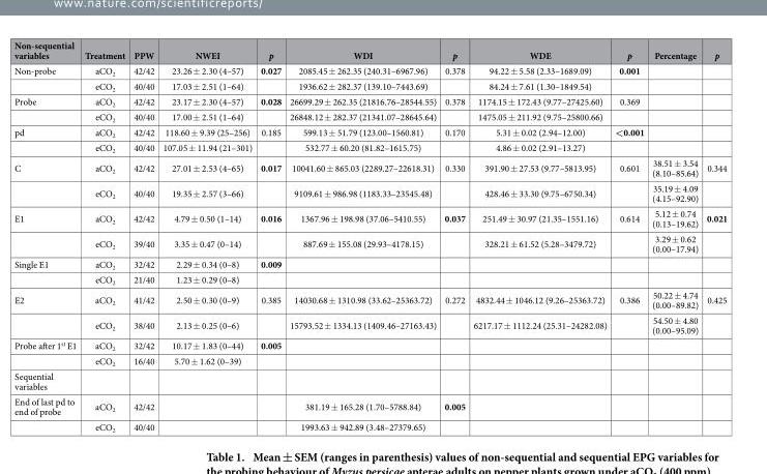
<table><thead><tr><td>Non-sequential variables</td><td>Treatment</td><td>PPW</td><td>NWEI</td><td>p</td><td>WDI</td><td>p</td><td>WDE</td><td>p</td><td>Percentage</td><td>p</td></tr></thead><tbody><tr><td rowspan="2">Non-probe</td><td>aCO<sub>2</sub></td><td>42/42</td><td>23.26 ± 2.30 (4–57)</td><td>0.027</td><td>2085.45 ± 262.35 (240.31–6967.96)</td><td>0.378</td><td>94.22 ± 5.58 (2.33–1689.09)</td><td>0.001</td><td></td><td></td></tr><tr><td>eCO<sub>2</sub></td><td>40/40</td><td>17.03 ± 2.51 (1–64)</td><td></td><td>1936.62 ± 282.37 (139.10–7443.69)</td><td></td><td>84.24 ± 7.61 (1.30–1849.54)</td><td></td><td></td><td></td></tr><tr><td rowspan="2">Probe</td><td>aCO<sub>2</sub></td><td>42/42</td><td>23.17 ± 2.30 (4–57)</td><td>0.028</td><td>26699.29 ± 262.35 (21816.76–28544.55)</td><td>0.378</td><td>1174.15 ± 172.43 (9.77–27425.60)</td><td>0.369</td><td></td><td></td></tr><tr><td>eCO<sub>2</sub></td><td>40/40</td><td>17.00 ± 2.51 (1–64)</td><td></td><td>26848.12 ± 282.37 (21341.07–28645.64)</td><td></td><td>1475.05 ± 211.92 (9.75–25800.66)</td><td></td><td></td><td></td></tr><tr><td rowspan="2">pd</td><td>aCO<sub>2</sub></td><td>42/42</td><td>118.60 ± 9.39 (25–256)</td><td>0.185</td><td>599.13 ± 51.79 (123.00–1560.81)</td><td>0.170</td><td>5.31 ± 0.02 (2.94–12.00)</td><td>&lt;0.001</td><td></td><td></td></tr><tr><td>eCO<sub>2</sub></td><td>40/40</td><td>107.05 ± 11.94 (21–301)</td><td></td><td>532.77 ± 60.20 (81.82–1615.75)</td><td></td><td>4.86 ± 0.02 (2.91–13.27)</td><td></td><td></td><td></td></tr><tr><td rowspan="2">C</td><td>aCO<sub>2</sub></td><td>42/42</td><td>27.01 ± 2.53 (4–65)</td><td>0.017</td><td>10041.60 ± 865.03 (2289.27–22618.31)</td><td>0.330</td><td>391.90 ± 27.53 (9.77–5813.95)</td><td>0.601</td><td>38.51 ± 3.54 (8.10–85.64)</td><td>0.344</td></tr><tr><td>eCO<sub>2</sub></td><td>40/40</td><td>19.35 ± 2.57 (3–66)</td><td></td><td>9109.61 ± 986.98 (1183.33–23545.48)</td><td></td><td>428.46 ± 33.30 (9.75–6750.34)</td><td></td><td>35.19 ± 4.09 (4.15–92.90)</td><td></td></tr><tr><td rowspan="2">E1</td><td>aCO<sub>2</sub></td><td>42/42</td><td>4.79 ± 0.50 (1–14)</td><td>0.016</td><td>1367.96 ± 198.98 (37.06–5410.55)</td><td>0.037</td><td>251.49 ± 30.97 (21.35–1551.16)</td><td>0.614</td><td>5.12 ± 0.74 (0.13–19.62)</td><td>0.021</td></tr><tr><td>eCO<sub>2</sub></td><td>39/40</td><td>3.35 ± 0.47 (0–14)</td><td></td><td>887.69 ± 155.08 (29.93–4178.15)</td><td></td><td>328.21 ± 61.52 (5.28–3479.72)</td><td></td><td>3.29 ± 0.62 (0.00–17.94)</td><td></td></tr><tr><td rowspan="2">Single E1</td><td>aCO<sub>2</sub></td><td>32/42</td><td>2.29 ± 0.34 (0–8)</td><td>0.009</td><td></td><td></td><td></td><td></td><td></td><td></td></tr><tr><td>eCO<sub>2</sub></td><td>21/40</td><td>1.23 ± 0.29 (0–8)</td><td></td><td></td><td></td><td></td><td></td><td></td><td></td></tr><tr><td rowspan="2">E2</td><td>aCO<sub>2</sub></td><td>41/42</td><td>2.50 ± 0.30 (0–9)</td><td>0.385</td><td>14030.68 ± 1310.98 (33.62–25363.72)</td><td>0.272</td><td>4832.44 ± 1046.12 (9.26–25363.72)</td><td>0.386</td><td>50.22 ± 4.74 (0.00–89.82)</td><td>0.425</td></tr><tr><td>eCO<sub>2</sub></td><td>38/40</td><td>2.13 ± 0.25 (0–6)</td><td></td><td>15793.52 ± 1334.13 (1409.46–27163.43)</td><td></td><td>6217.17 ± 1112.24 (25.31–24282.08)</td><td></td><td>54.50 ± 4.80 (0.00–95.09)</td><td></td></tr><tr><td rowspan="2">Probe after 1<sup>st</sup> E1</td><td>aCO<sub>2</sub></td><td>32/42</td><td>10.17 ± 1.83 (0–44)</td><td>0.005</td><td></td><td></td><td></td><td></td><td></td><td></td></tr><tr><td>eCO<sub>2</sub></td><td>16/40</td><td>5.70 ± 1.62 (0–39)</td><td></td><td></td><td></td><td></td><td></td><td></td><td></td></tr><tr><td colspan="11">Sequential variables</td></tr><tr><td rowspan="2">End of last pd to end of probe</td><td>aCO<sub>2</sub></td><td>42/42</td><td></td><td></td><td>381.19 ± 165.28 (1.70–5788.84)</td><td>0.005</td><td></td><td></td><td></td><td></td></tr><tr><td>eCO<sub>2</sub></td><td>40/40</td><td></td><td></td><td>1993.63 ± 942.89 (3.48–27379.65)</td><td></td><td></td><td></td><td></td><td></td></tr></tbody></table>